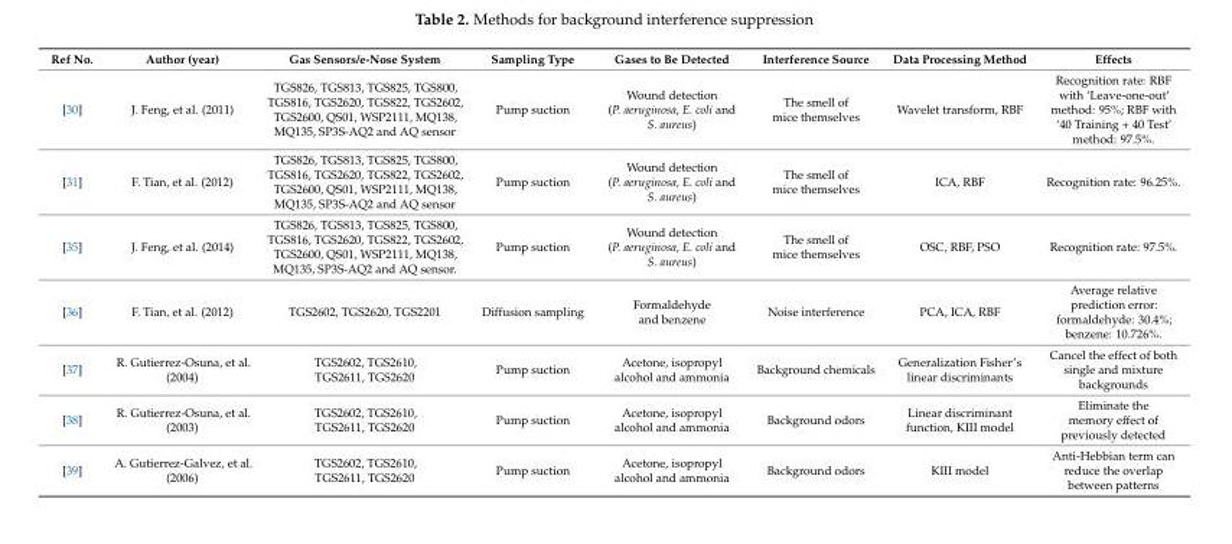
<table><thead><tr><td>Ref No.</td><td>Author (year)</td><td>Gas Sensors/e-Nose System</td><td>Sampling Type</td><td>Gases to Be Detected</td><td>Interference Source</td><td>Data Processing Method</td><td>Effects</td></tr></thead><tbody><tr><td>[30]</td><td>J. Feng, et al. (2011)</td><td>TGS826, TGS813, TGS825, TGS800, TGS816, TGS2620, TGS822, TGS2602, TGS2600, QS01, WSP2111, MQ138, MQ135, SP3S-AQ2 and AQ sensor</td><td>Pump suction</td><td>Wound detection (P. aeruginosa, E. coli and S. aureus)</td><td>The smell of mice themselves</td><td>Wavelet transform, RBF</td><td>Recognition rate: RBF with ‘Leave-one-out’ method: 95%; RBF with ‘40 Training + 40 Test’ method: 97.5%.</td></tr><tr><td>[31]</td><td>F. Tian, et al. (2012)</td><td>TGS826, TGS813, TGS825, TGS800, TGS816, TGS2620, TGS822, TGS2602, TGS2600, QS01, WSP2111, MQ138, MQ135, SP3S-AQ2 and AQ sensor</td><td>Pump suction</td><td>Wound detection (P. aeruginosa, E. coli and S. aureus)</td><td>The smell of mice themselves</td><td>ICA, RBF</td><td>Recognition rate: 96.25%.</td></tr><tr><td>[35]</td><td>J. Feng, et al. (2014)</td><td>TGS826, TGS813, TGS825, TGS800, TGS816, TGS2620, TGS822, TGS2602, TGS2600, QS01, WSP2111, MQ138, MQ135, SP3S-AQ2 and AQ sensor.</td><td>Pump suction</td><td>Wound detection (P. aeruginosa, E. coli and S. aureus)</td><td>The smell of mice themselves</td><td>OSC, RBF, PSO</td><td>Recognition rate: 97.5%.</td></tr><tr><td>[36]</td><td>F. Tian, et al. (2012)</td><td>TGS2602, TGS2620, TGS2201</td><td>Diffusion sampling</td><td>Formaldehyde and benzene</td><td>Noise interference</td><td>PCA, ICA, RBF</td><td>Average relative prediction error: formaldehyde: 30.4%; benzene: 10.726%.</td></tr><tr><td>[37]</td><td>R. Gutierrez-Osuna, et al. (2004)</td><td>TGS2602, TGS2610, TGS2611, TGS2620</td><td>Pump suction</td><td>Acetone, isopropyl alcohol and ammonia</td><td>Background chemicals</td><td>Generalization Fisher’s linear discriminants</td><td>Cancel the effect of both single and mixture backgrounds</td></tr><tr><td>[38]</td><td>R. Gutierrez-Osuna, et al. (2003)</td><td>TGS2602, TGS2610, TGS2611, TGS2620</td><td>Pump suction</td><td>Acetone, isopropyl alcohol and ammonia</td><td>Background odors</td><td>Linear discriminant function, KIII model</td><td>Eliminate the memory effect of previously detected</td></tr><tr><td>[39]</td><td>A. Gutierrez-Galvez, et al. (2006)</td><td>TGS2602, TGS2610, TGS2611, TGS2620</td><td>Pump suction</td><td>Acetone, isopropyl alcohol and ammonia</td><td>Background odors</td><td>KIII model</td><td>Anti-Hebbian term can reduce the overlap between patterns</td></tr></tbody></table>